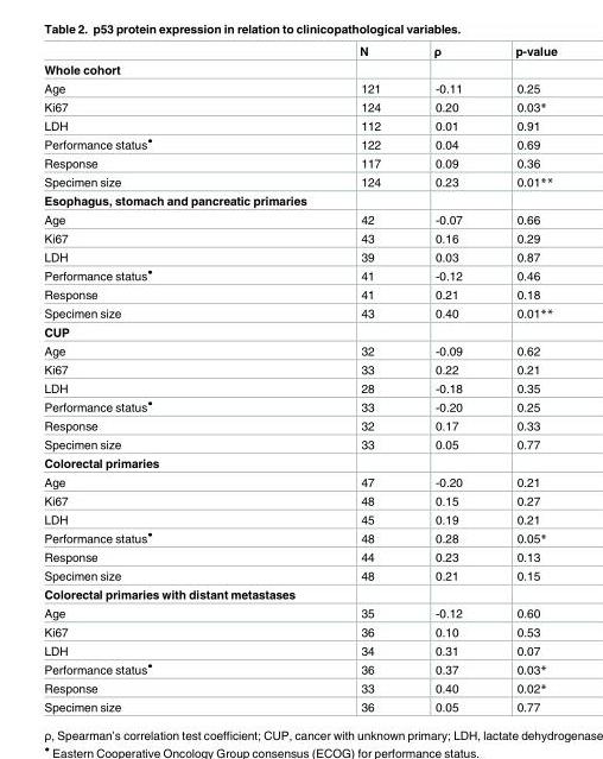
<table><thead><tr><td></td><td>N</td><td>ρ</td><td>p-value</td></tr></thead><tbody><tr><td colspan="4">Whole cohort</td></tr><tr><td>Age</td><td>121</td><td>-0.11</td><td>0.25</td></tr><tr><td>Ki67</td><td>124</td><td>0.20</td><td>0.03*</td></tr><tr><td>LDH</td><td>112</td><td>0.01</td><td>0.91</td></tr><tr><td>Performance status<sup>●</sup></td><td>122</td><td>0.04</td><td>0.69</td></tr><tr><td>Response</td><td>117</td><td>0.09</td><td>0.36</td></tr><tr><td>Specimen size</td><td>124</td><td>0.23</td><td>0.01**</td></tr><tr><td colspan="4">Esophagus, stomach and pancreatic primaries</td></tr><tr><td>Age</td><td>42</td><td>-0.07</td><td>0.66</td></tr><tr><td>Ki67</td><td>43</td><td>0.16</td><td>0.29</td></tr><tr><td>LDH</td><td>39</td><td>0.03</td><td>0.87</td></tr><tr><td>Performance status<sup>●</sup></td><td>41</td><td>-0.12</td><td>0.46</td></tr><tr><td>Response</td><td>41</td><td>0.21</td><td>0.18</td></tr><tr><td>Specimen size</td><td>43</td><td>0.40</td><td>0.01**</td></tr><tr><td colspan="4">CUP</td></tr><tr><td>Age</td><td>32</td><td>-0.09</td><td>0.62</td></tr><tr><td>Ki67</td><td>33</td><td>0.22</td><td>0.21</td></tr><tr><td>LDH</td><td>28</td><td>-0.18</td><td>0.35</td></tr><tr><td>Performance status<sup>●</sup></td><td>33</td><td>-0.20</td><td>0.25</td></tr><tr><td>Response</td><td>32</td><td>0.17</td><td>0.33</td></tr><tr><td>Specimen size</td><td>33</td><td>0.05</td><td>0.77</td></tr><tr><td colspan="4">Colorectal primaries</td></tr><tr><td>Age</td><td>47</td><td>-0.20</td><td>0.21</td></tr><tr><td>Ki67</td><td>48</td><td>0.15</td><td>0.27</td></tr><tr><td>LDH</td><td>45</td><td>0.19</td><td>0.21</td></tr><tr><td>Performance status<sup>●</sup></td><td>48</td><td>0.28</td><td>0.05*</td></tr><tr><td>Response</td><td>44</td><td>0.23</td><td>0.13</td></tr><tr><td>Specimen size</td><td>48</td><td>0.21</td><td>0.15</td></tr><tr><td colspan="4">Colorectal primaries with distant metastases</td></tr><tr><td>Age</td><td>35</td><td>-0.12</td><td>0.60</td></tr><tr><td>Ki67</td><td>36</td><td>0.10</td><td>0.53</td></tr><tr><td>LDH</td><td>34</td><td>0.31</td><td>0.07</td></tr><tr><td>Performance status<sup>●</sup></td><td>36</td><td>0.37</td><td>0.03*</td></tr><tr><td>Response</td><td>33</td><td>0.40</td><td>0.02*</td></tr><tr><td>Specimen size</td><td>36</td><td>0.05</td><td>0.77</td></tr></tbody></table>